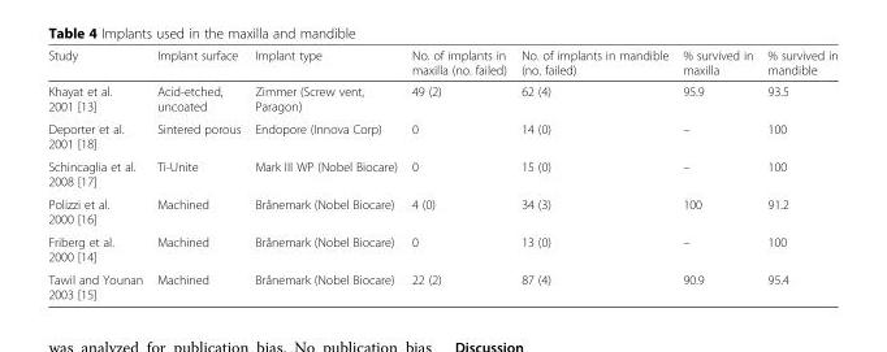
<table><thead><tr><td>Study</td><td>Implant surface</td><td>Implant type</td><td>No. of implants in maxilla (no. failed)</td><td>No. of implants in mandible (no. failed)</td><td>% survived in maxilla</td><td>% survived in mandible</td></tr></thead><tbody><tr><td>Khayat et al. 2001 [13]</td><td>Acid-etched, uncoated</td><td>Zimmer (Screw vent, Paragon)</td><td>49 (2)</td><td>62 (4)</td><td>95.9</td><td>93.5</td></tr><tr><td>Deporter et al. 2001 [18]</td><td>Sintered porous</td><td>Endopore (Innova Corp)</td><td>0</td><td>14 (0)</td><td>–</td><td>100</td></tr><tr><td>Schincaglia et al. 2008 [17]</td><td>Ti-Unite</td><td>Mark III WP (Nobel Biocare)</td><td>0</td><td>15 (0)</td><td>–</td><td>100</td></tr><tr><td>Polizzi et al. 2000 [16]</td><td>Machined</td><td>Brånemark (Nobel Biocare)</td><td>4 (0)</td><td>34 (3)</td><td>100</td><td>91.2</td></tr><tr><td>Friberg et al. 2000 [14]</td><td>Machined</td><td>Brånemark (Nobel Biocare)</td><td>0</td><td>13 (0)</td><td>–</td><td>100</td></tr><tr><td>Tawil and Younan 2003 [15]</td><td>Machined</td><td>Brånemark (Nobel Biocare)</td><td>22 (2)</td><td>87 (4)</td><td>90.9</td><td>95.4</td></tr></tbody></table>